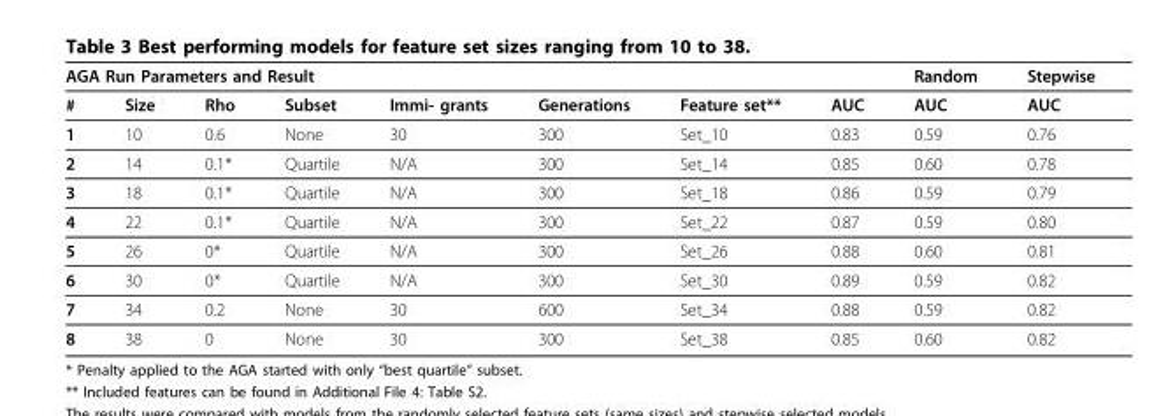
<table><thead><tr><td colspan="8">AGA Run Parameters and Result</td><td rowspan="2">Random AUC</td><td rowspan="2">Stepwise AUC</td></tr><tr><td>#</td><td>Size</td><td>Rho</td><td>Subset</td><td>Immi- grants</td><td>Generations</td><td>Feature set**</td><td>AUC</td></tr></thead><tbody><tr><td>1</td><td>10</td><td>0.6</td><td>None</td><td>30</td><td>300</td><td>Set_10</td><td>0.83</td><td>0.59</td><td>0.76</td></tr><tr><td>2</td><td>14</td><td>0.1*</td><td>Quartile</td><td>N/A</td><td>300</td><td>Set_14</td><td>0.85</td><td>0.60</td><td>0.78</td></tr><tr><td>3</td><td>18</td><td>0.1*</td><td>Quartile</td><td>N/A</td><td>300</td><td>Set_18</td><td>0.86</td><td>0.59</td><td>0.79</td></tr><tr><td>4</td><td>22</td><td>0.1*</td><td>Quartile</td><td>N/A</td><td>300</td><td>Set_22</td><td>0.87</td><td>0.59</td><td>0.80</td></tr><tr><td>5</td><td>26</td><td>0*</td><td>Quartile</td><td>N/A</td><td>300</td><td>Set_26</td><td>0.88</td><td>0.60</td><td>0.81</td></tr><tr><td>6</td><td>30</td><td>0*</td><td>Quartile</td><td>N/A</td><td>300</td><td>Set_30</td><td>0.89</td><td>0.59</td><td>0.82</td></tr><tr><td>7</td><td>34</td><td>0.2</td><td>None</td><td>30</td><td>600</td><td>Set_34</td><td>0.88</td><td>0.59</td><td>0.82</td></tr><tr><td>8</td><td>38</td><td>0</td><td>None</td><td>30</td><td>300</td><td>Set_38</td><td>0.85</td><td>0.60</td><td>0.82</td></tr></tbody></table>